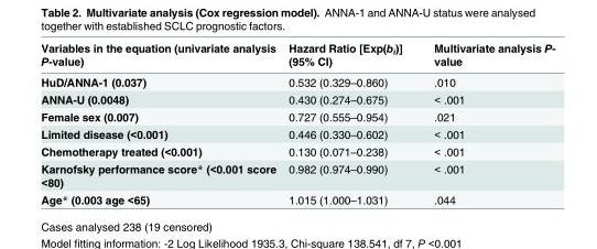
<table><thead><tr><td>Variables in the equation (univariate analysis P-value)</td><td>Hazard Ratio [Exp(b<sub>i</sub>)] (95% CI)</td><td>Multivariate analysis P- value</td></tr></thead><tbody><tr><td>HuD/ANNA-1 (0.037)</td><td>0.532 (0.329–0.860)</td><td>.010</td></tr><tr><td>ANNA-U (0.0048)</td><td>0.430 (0.274–0.675)</td><td>&lt; .001</td></tr><tr><td>Female sex (0.007)</td><td>0.727 (0.555–0.954)</td><td>.021</td></tr><tr><td>Limited disease (&lt;0.001)</td><td>0.446 (0.330–0.602)</td><td>&lt; .001</td></tr><tr><td>Chemotherapy treated (&lt;0.001)</td><td>0.130 (0.071–0.238)</td><td>&lt; .001</td></tr><tr><td>Karnofsky performance score* (&lt;0.001 score &lt;80)</td><td>0.982 (0.974–0.990)</td><td>&lt; .001</td></tr><tr><td>Age* (0.003 age &lt;65)</td><td>1.015 (1.000–1.031)</td><td>.044</td></tr></tbody></table>